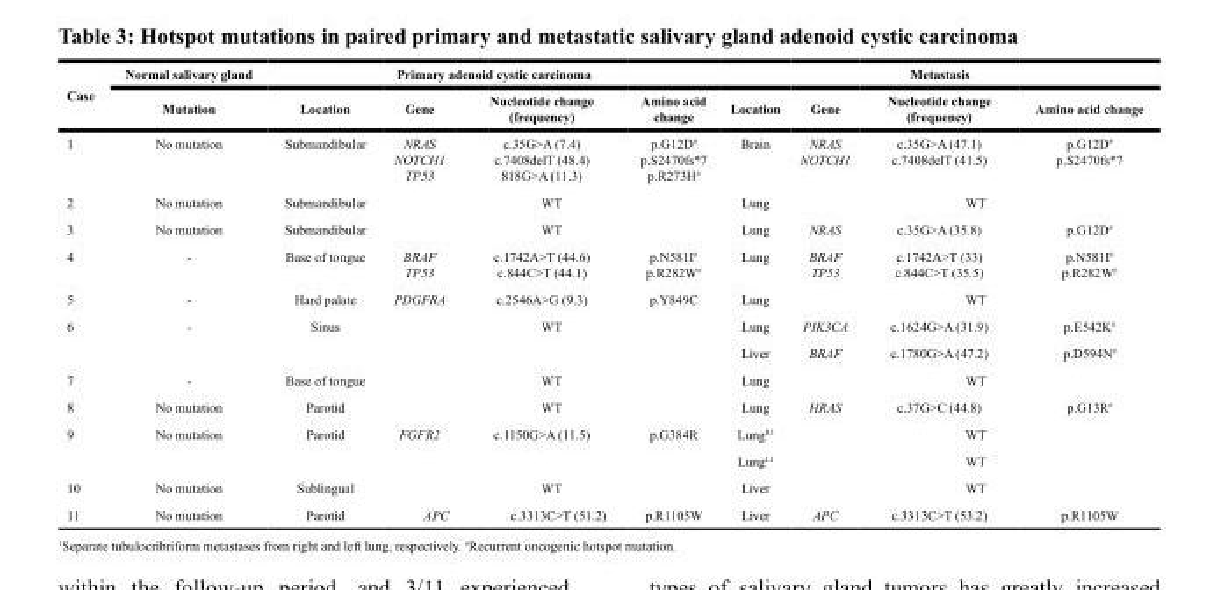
<table><thead><tr><td rowspan="2">Case</td><td rowspan="2">Normal salivary gland Mutation</td><td colspan="4">Primary adenoid cystic carcinoma</td><td colspan="4">Metastasis</td></tr><tr><td>Location</td><td>Gene</td><td>Nucleotide change (frequency)</td><td>Amino acid change</td><td>Location</td><td>Gene</td><td>Nucleotide change (frequency)</td><td>Amino acid change</td></tr></thead><tbody><tr><td>1</td><td>No mutation</td><td>Submandibular</td><td>NRAS NOTCH1 TP53</td><td>c.35G&gt;A (7.4) c.7408delT (48.4) 818G&gt;A (11.3)</td><td>p.G12D<sup>#</sup> p.S2470fs*7 p.R273H<sup>#</sup></td><td>Brain</td><td>NRAS NOTCH1</td><td>c.35G&gt;A (47.1) c.7408delT (41.5)</td><td>p.G12D<sup>#</sup> p.S2470fs*7</td></tr><tr><td>2</td><td>No mutation</td><td>Submandibular</td><td colspan="3">WT</td><td>Lung</td><td colspan="3">WT</td></tr><tr><td>3</td><td>No mutation</td><td>Submandibular</td><td colspan="3">WT</td><td>Lung</td><td>NRAS</td><td>c.35G&gt;A (35.8)</td><td>p.G12D<sup>#</sup></td></tr><tr><td>4</td><td>-</td><td>Base of tongue</td><td>BRAF TP53</td><td>c.1742A&gt;T (44.6) c.844C&gt;T (44.1)</td><td>p.N581I<sup>#</sup> p.R282W<sup>#</sup></td><td>Lung</td><td>BRAF TP53</td><td>c.1742A&gt;T (33) c.844C&gt;T (35.5)</td><td>p.N581I<sup>#</sup> p.R282W<sup>#</sup></td></tr><tr><td>5</td><td>-</td><td>Hard palate</td><td>PDGFRA</td><td>c.2546A&gt;G (9.3)</td><td>p.Y849C</td><td>Lung</td><td colspan="3">WT</td></tr><tr><td rowspan="2">6</td><td>-</td><td>Sinus</td><td colspan="3">WT</td><td>Lung</td><td>PIK3CA</td><td>c.1624G&gt;A (31.9)</td><td>p.E542K<sup>#</sup></td></tr><tr><td></td><td></td><td></td><td></td><td></td><td>Liver</td><td>BRAF</td><td>c.1780G&gt;A (47.2)</td><td>p.D594N<sup>#</sup></td></tr><tr><td>7</td><td>-</td><td>Base of tongue</td><td colspan="3">WT</td><td>Lung</td><td colspan="3">WT</td></tr><tr><td>8</td><td>No mutation</td><td>Parotid</td><td colspan="3">WT</td><td>Lung</td><td>HRAS</td><td>c.37G&gt;C (44.8)</td><td>p.G13R<sup>#</sup></td></tr><tr><td rowspan="2">9</td><td>No mutation</td><td>Parotid</td><td>FGFR2</td><td>c.1150G&gt;A (11.5)</td><td>p.G384R</td><td>Lung<sup>R1</sup></td><td colspan="3">WT</td></tr><tr><td></td><td></td><td></td><td></td><td></td><td>Lung<sup>L1</sup></td><td colspan="3">WT</td></tr><tr><td>10</td><td>No mutation</td><td>Sublingual</td><td colspan="3">WT</td><td>Liver</td><td colspan="3">WT</td></tr><tr><td>11</td><td>No mutation</td><td>Parotid</td><td>APC</td><td>c.3313C&gt;T (51.2)</td><td>p.R1105W</td><td>Liver</td><td>APC</td><td>c.3313C&gt;T (53.2)</td><td>p.R1105W</td></tr></tbody></table>